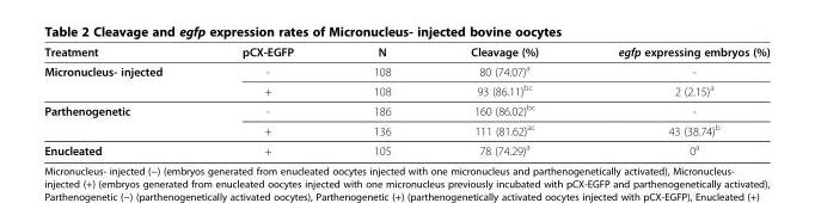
<table><thead><tr><td>Treatment</td><td>pCX-EGFP</td><td>N</td><td>Cleavage (%)</td><td>egfp expressing embryos (%)</td></tr></thead><tbody><tr><td rowspan="2">Micronucleus- injected</td><td>-</td><td>108</td><td>80 (74.07)<sup>a</sup></td><td>-</td></tr><tr><td>+</td><td>108</td><td>93 (86.11)<sup>bc</sup></td><td>2 (2.15)<sup>a</sup></td></tr><tr><td rowspan="2">Parthenogenetic</td><td>-</td><td>186</td><td>160 (86.02)<sup>bc</sup></td><td>-</td></tr><tr><td>+</td><td>136</td><td>111 (81.62)<sup>ac</sup></td><td>43 (38.74)<sup>b</sup></td></tr><tr><td>Enucleated</td><td>+</td><td>105</td><td>78 (74.29)<sup>a</sup></td><td>0<sup>a</sup></td></tr></tbody></table>